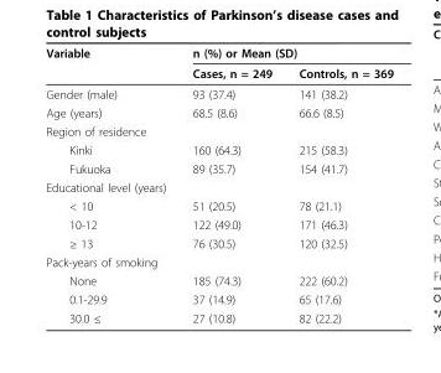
<table><thead><tr><td rowspan="2">Variable</td><td colspan="2">n (%) or Mean (SD)</td></tr><tr><td>Cases, n = 249</td><td>Controls, n = 369</td></tr></thead><tbody><tr><td>Gender (male)</td><td>93 (37.4)</td><td>141 (38.2)</td></tr><tr><td>Age (years)</td><td>68.5 (8.6)</td><td>66.6 (8.5)</td></tr><tr><td colspan="3">Region of residence</td></tr><tr><td>Kinki</td><td>160 (64.3)</td><td>215 (58.3)</td></tr><tr><td>Fukuoka</td><td>89 (35.7)</td><td>154 (41.7)</td></tr><tr><td colspan="3">Educational level (years)</td></tr><tr><td>&lt; 10</td><td>51 (20.5)</td><td>78 (21.1)</td></tr><tr><td>10-12</td><td>122 (49.0)</td><td>171 (46.3)</td></tr><tr><td>≥ 13</td><td>76 (30.5)</td><td>120 (32.5)</td></tr><tr><td colspan="3">Pack-years of smoking</td></tr><tr><td>None</td><td>185 (74.3)</td><td>222 (60.2)</td></tr><tr><td>0.1-29.9</td><td>37 (14.9)</td><td>65 (17.6)</td></tr><tr><td>30.0 ≤</td><td>27 (10.8)</td><td>82 (22.2)</td></tr></tbody></table>